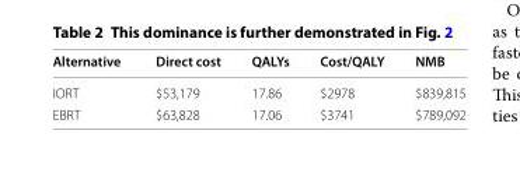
<table><thead><tr><td>Alternative</td><td>Direct cost</td><td>QALYs</td><td>Cost/QALY</td><td>NMB</td></tr></thead><tbody><tr><td>IORT</td><td>$53,179</td><td>17.86</td><td>$2978</td><td>$839,815</td></tr><tr><td>EBRT</td><td>$63,828</td><td>17.06</td><td>$3741</td><td>$789,092</td></tr></tbody></table>